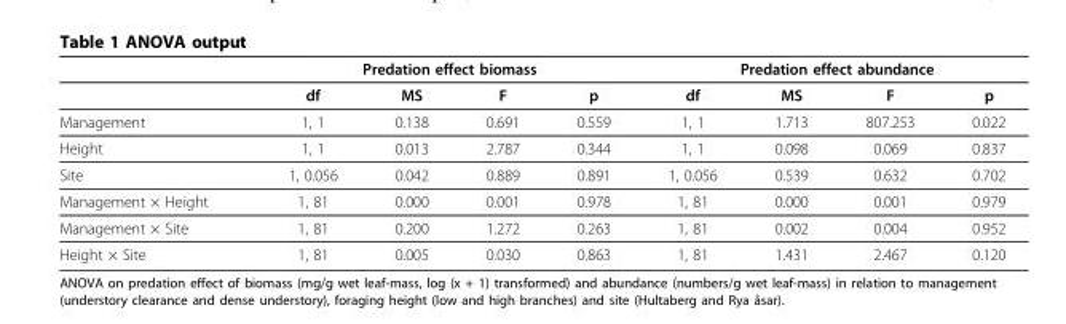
<table><thead><tr><td rowspan="2"></td><td colspan="4">Predation effect biomass</td><td colspan="4">Predation effect abundance</td></tr><tr><td>df</td><td>MS</td><td>F</td><td>p</td><td>df</td><td>MS</td><td>F</td><td>p</td></tr></thead><tbody><tr><td>Management</td><td>1, 1</td><td>0.138</td><td>0.691</td><td>0.559</td><td>1, 1</td><td>1.713</td><td>807.253</td><td>0.022</td></tr><tr><td>Height</td><td>1, 1</td><td>0.013</td><td>2.787</td><td>0.344</td><td>1, 1</td><td>0.098</td><td>0.069</td><td>0.837</td></tr><tr><td>Site</td><td>1, 0.056</td><td>0.042</td><td>0.889</td><td>0.891</td><td>1, 0.056</td><td>0.539</td><td>0.632</td><td>0.702</td></tr><tr><td>Management × Height</td><td>1, 81</td><td>0.000</td><td>0.001</td><td>0.978</td><td>1, 81</td><td>0.000</td><td>0.001</td><td>0.979</td></tr><tr><td>Management × Site</td><td>1, 81</td><td>0.200</td><td>1.272</td><td>0.263</td><td>1, 81</td><td>0.002</td><td>0.004</td><td>0.952</td></tr><tr><td>Height × Site</td><td>1, 81</td><td>0.005</td><td>0.030</td><td>0.863</td><td>1, 81</td><td>1.431</td><td>2.467</td><td>0.120</td></tr></tbody></table>